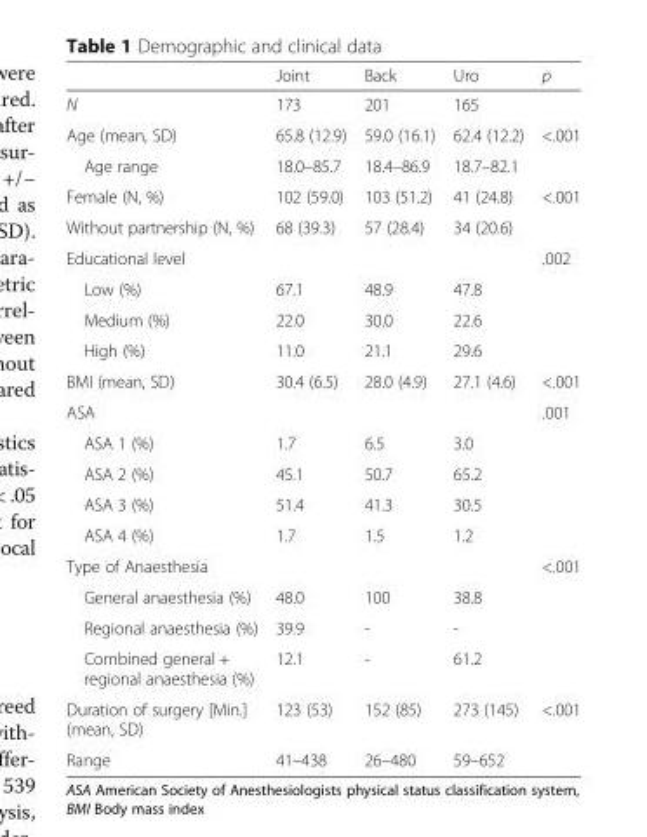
<table><thead><tr><td></td><td>Joint</td><td>Back</td><td>Uro</td><td>p</td></tr></thead><tbody><tr><td>N</td><td>173</td><td>201</td><td>165</td><td></td></tr><tr><td>Age (mean, SD)</td><td>65.8 (12.9)</td><td>59.0 (16.1)</td><td>62.4 (12.2)</td><td>&lt;.001</td></tr><tr><td>Age range</td><td>18.0–85.7</td><td>18.4–86.9</td><td>18.7–82.1</td><td></td></tr><tr><td>Female (N, %)</td><td>102 (59.0)</td><td>103 (51.2)</td><td>41 (24.8)</td><td>&lt;.001</td></tr><tr><td>Without partnership (N, %)</td><td>68 (39.3)</td><td>57 (28.4)</td><td>34 (20.6)</td><td></td></tr><tr><td>Educational level</td><td></td><td></td><td></td><td>.002</td></tr><tr><td>Low (%)</td><td>67.1</td><td>48.9</td><td>47.8</td><td></td></tr><tr><td>Medium (%)</td><td>22.0</td><td>30.0</td><td>22.6</td><td></td></tr><tr><td>High (%)</td><td>11.0</td><td>21.1</td><td>29.6</td><td></td></tr><tr><td>BMI (mean, SD)</td><td>30.4 (6.5)</td><td>28.0 (4.9)</td><td>27.1 (4.6)</td><td>&lt;.001</td></tr><tr><td>ASA</td><td></td><td></td><td></td><td>.001</td></tr><tr><td>ASA 1 (%)</td><td>1.7</td><td>6.5</td><td>3.0</td><td></td></tr><tr><td>ASA 2 (%)</td><td>45.1</td><td>50.7</td><td>65.2</td><td></td></tr><tr><td>ASA 3 (%)</td><td>51.4</td><td>41.3</td><td>30.5</td><td></td></tr><tr><td>ASA 4 (%)</td><td>1.7</td><td>1.5</td><td>1.2</td><td></td></tr><tr><td>Type of Anaesthesia</td><td></td><td></td><td></td><td>&lt;.001</td></tr><tr><td>General anaesthesia (%)</td><td>48.0</td><td>100</td><td>38.8</td><td></td></tr><tr><td>Regional anaesthesia (%)</td><td>39.9</td><td>-</td><td>-</td><td></td></tr><tr><td>Combined general + regional anaesthesia (%)</td><td>12.1</td><td>-</td><td>61.2</td><td></td></tr><tr><td>Duration of surgery [Min.] (mean, SD)</td><td>123 (53)</td><td>152 (85)</td><td>273 (145)</td><td>&lt;.001</td></tr><tr><td>Range</td><td>41–438</td><td>26–480</td><td>59–652</td><td></td></tr></tbody></table>